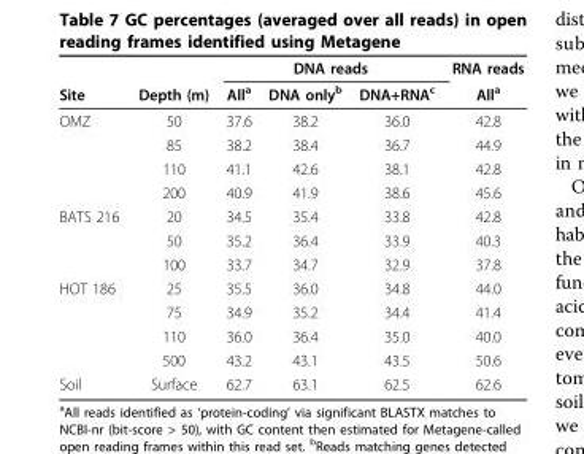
<table><thead><tr><td rowspan="2">Site</td><td rowspan="2">Depth (m)</td><td colspan="3">DNA reads</td><td rowspan="2">RNA reads All<sup>a</sup></td></tr><tr><td>All<sup>a</sup></td><td>DNA only<sup>b</sup></td><td>DNA+RNA<sup>c</sup></td></tr></thead><tbody><tr><td rowspan="4">OMZ</td><td>50</td><td>37.6</td><td>38.2</td><td>36.0</td><td>42.8</td></tr><tr><td>85</td><td>38.2</td><td>38.4</td><td>36.7</td><td>44.9</td></tr><tr><td>110</td><td>41.1</td><td>42.6</td><td>38.1</td><td>42.8</td></tr><tr><td>200</td><td>40.9</td><td>41.9</td><td>38.6</td><td>45.6</td></tr><tr><td rowspan="3">BATS 216</td><td>20</td><td>34.5</td><td>35.4</td><td>33.8</td><td>42.8</td></tr><tr><td>50</td><td>35.2</td><td>36.4</td><td>33.9</td><td>40.3</td></tr><tr><td>100</td><td>33.7</td><td>34.7</td><td>32.9</td><td>37.8</td></tr><tr><td rowspan="4">HOT 186</td><td>25</td><td>35.5</td><td>36.0</td><td>34.8</td><td>44.0</td></tr><tr><td>75</td><td>34.9</td><td>35.2</td><td>34.4</td><td>41.4</td></tr><tr><td>110</td><td>36.0</td><td>36.4</td><td>35.0</td><td>40.0</td></tr><tr><td>500</td><td>43.2</td><td>43.1</td><td>43.5</td><td>50.6</td></tr><tr><td>Soil</td><td>Surface</td><td>62.7</td><td>63.1</td><td>62.5</td><td>62.6</td></tr></tbody></table>